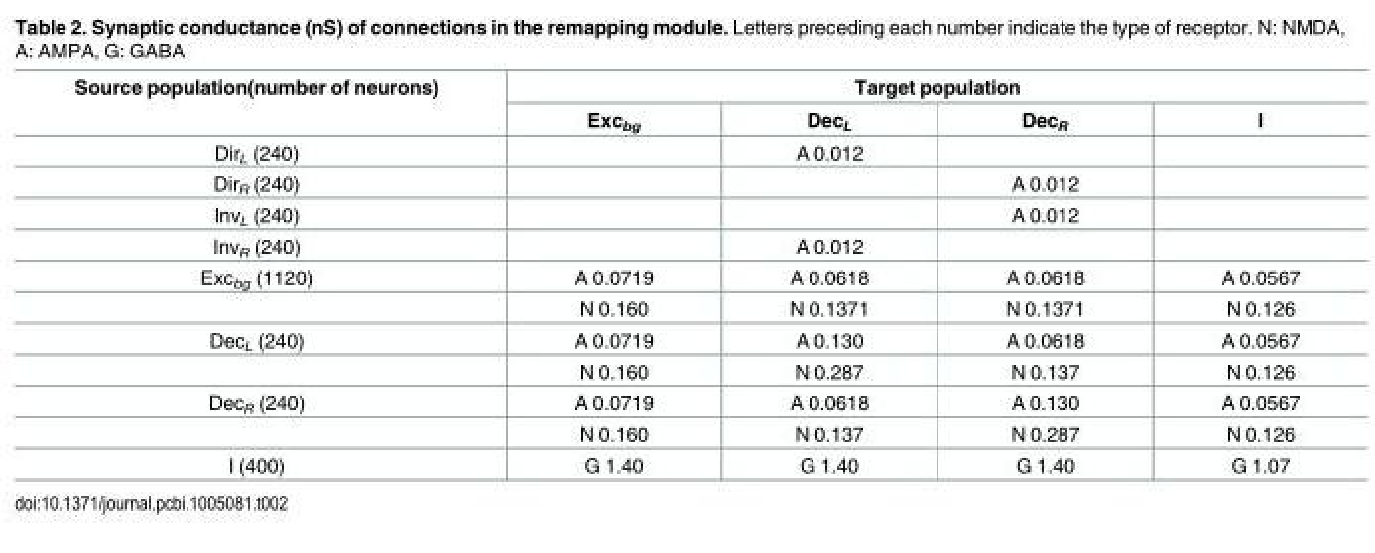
<table><thead><tr><td rowspan="2">Source population(number of neurons)</td><td colspan="4">Target population</td></tr><tr><td>Exc<sub>bg</sub></td><td>Dec<sub>L</sub></td><td>Dec<sub>R</sub></td><td>I</td></tr></thead><tbody><tr><td>Dir<sub>L</sub> (240)</td><td></td><td>A 0.012</td><td></td><td></td></tr><tr><td>Dir<sub>R</sub> (240)</td><td></td><td></td><td>A 0.012</td><td></td></tr><tr><td>Inv<sub>L</sub> (240)</td><td></td><td></td><td>A 0.012</td><td></td></tr><tr><td>Inv<sub>R</sub> (240)</td><td></td><td>A 0.012</td><td></td><td></td></tr><tr><td rowspan="2">Exc<sub>bg</sub> (1120)</td><td>A 0.0719</td><td>A 0.0618</td><td>A 0.0618</td><td>A 0.0567</td></tr><tr><td>N 0.160</td><td>N 0.1371</td><td>N 0.1371</td><td>N 0.126</td></tr><tr><td rowspan="2">Dec<sub>L</sub> (240)</td><td>A 0.0719</td><td>A 0.130</td><td>A 0.0618</td><td>A 0.0567</td></tr><tr><td>N 0.160</td><td>N 0.287</td><td>N 0.137</td><td>N 0.126</td></tr><tr><td rowspan="2">Dec<sub>R</sub> (240)</td><td>A 0.0719</td><td>A 0.0618</td><td>A 0.130</td><td>A 0.0567</td></tr><tr><td>N 0.160</td><td>N 0.137</td><td>N 0.287</td><td>N 0.126</td></tr><tr><td>I (400)</td><td>G 1.40</td><td>G 1.40</td><td>G 1.40</td><td>G 1.07</td></tr></tbody></table>